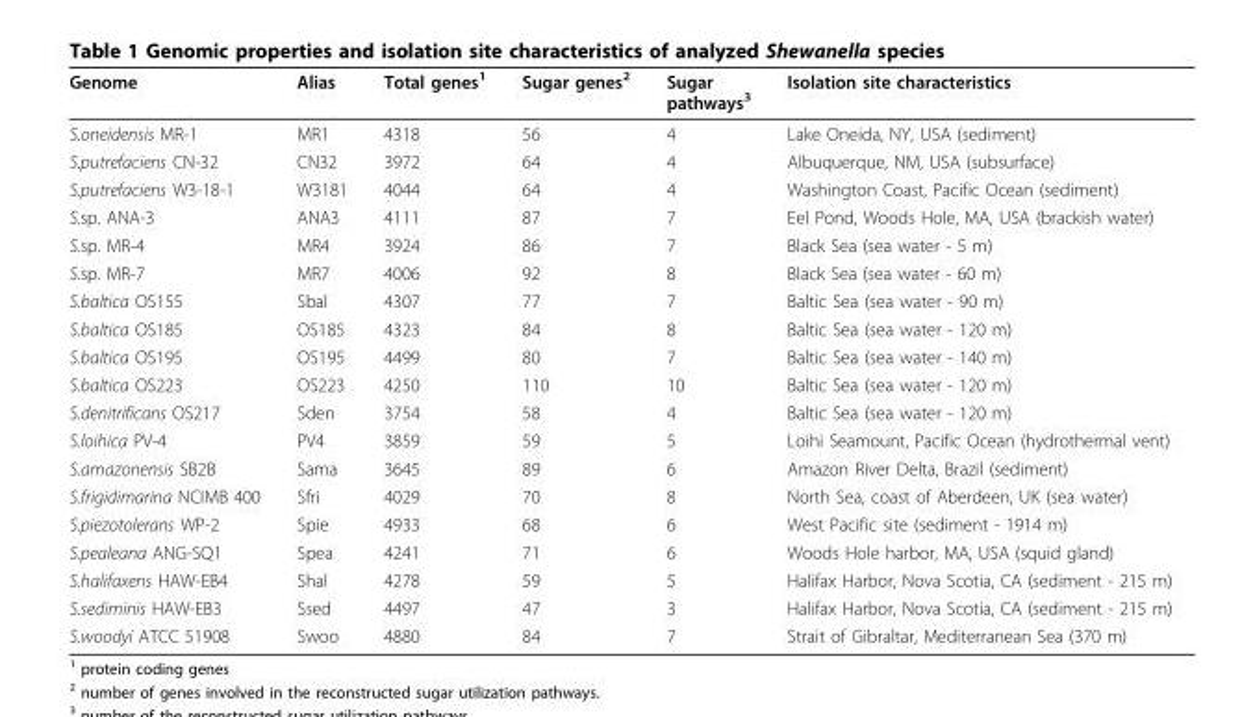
<table><thead><tr><td>Genome</td><td>Alias</td><td>Total genes<sup>1</sup></td><td>Sugar genes<sup>2</sup></td><td>Sugar pathways<sup>3</sup></td><td>Isolation site characteristics</td></tr></thead><tbody><tr><td>S.oneidensis MR-1</td><td>MR1</td><td>4318</td><td>56</td><td>4</td><td>Lake Oneida, NY, USA (sediment)</td></tr><tr><td>S.putrefaciens CN-32</td><td>CN32</td><td>3972</td><td>64</td><td>4</td><td>Albuquerque, NM, USA (subsurface)</td></tr><tr><td>S.putrefaciens W3-18-1</td><td>W3181</td><td>4044</td><td>64</td><td>4</td><td>Washington Coast, Pacific Ocean (sediment)</td></tr><tr><td>S.sp. ANA-3</td><td>ANA3</td><td>4111</td><td>87</td><td>7</td><td>Eel Pond, Woods Hole, MA, USA (brackish water)</td></tr><tr><td>S.sp. MR-4</td><td>MR4</td><td>3924</td><td>86</td><td>7</td><td>Black Sea (sea water - 5 m)</td></tr><tr><td>S.sp. MR-7</td><td>MR7</td><td>4006</td><td>92</td><td>8</td><td>Black Sea (sea water - 60 m)</td></tr><tr><td>S.baltica OS155</td><td>Sbal</td><td>4307</td><td>77</td><td>7</td><td>Baltic Sea (sea water - 90 m)</td></tr><tr><td>S.baltica OS185</td><td>OS185</td><td>4323</td><td>84</td><td>8</td><td>Baltic Sea (sea water - 120 m)</td></tr><tr><td>S.baltica OS195</td><td>OS195</td><td>4499</td><td>80</td><td>7</td><td>Baltic Sea (sea water - 140 m)</td></tr><tr><td>S.baltica OS223</td><td>OS223</td><td>4250</td><td>110</td><td>10</td><td>Baltic Sea (sea water - 120 m)</td></tr><tr><td>S.denitrificans OS217</td><td>Sden</td><td>3754</td><td>58</td><td>4</td><td>Baltic Sea (sea water - 120 m)</td></tr><tr><td>S.loihica PV-4</td><td>PV4</td><td>3859</td><td>59</td><td>5</td><td>Loihi Seamount, Pacific Ocean (hydrothermal vent)</td></tr><tr><td>S.amazonensis SB2B</td><td>Sama</td><td>3645</td><td>89</td><td>6</td><td>Amazon River Delta, Brazil (sediment)</td></tr><tr><td>S.frigidimarina NCIMB 400</td><td>Sfri</td><td>4029</td><td>70</td><td>8</td><td>North Sea, coast of Aberdeen, UK (sea water)</td></tr><tr><td>S.piezotolerans WP-2</td><td>Spie</td><td>4933</td><td>68</td><td>6</td><td>West Pacific site (sediment - 1914 m)</td></tr><tr><td>S.pealeana ANG-SQ1</td><td>Spea</td><td>4241</td><td>71</td><td>6</td><td>Woods Hole harbor, MA, USA (squid gland)</td></tr><tr><td>S.halifaxens HAW-EB4</td><td>Shal</td><td>4278</td><td>59</td><td>5</td><td>Halifax Harbor, Nova Scotia, CA (sediment - 215 m)</td></tr><tr><td>S.sediminis HAW-EB3</td><td>Ssed</td><td>4497</td><td>47</td><td>3</td><td>Halifax Harbor, Nova Scotia, CA (sediment - 215 m)</td></tr><tr><td>S.woodyi ATCC 51908</td><td>Swoo</td><td>4880</td><td>84</td><td>7</td><td>Strait of Gibraltar, Mediterranean Sea (370 m)</td></tr></tbody></table>